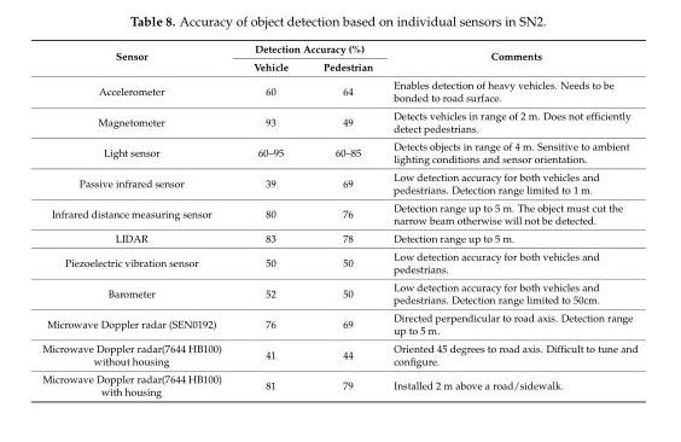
<table><thead><tr><td rowspan="2">Sensor</td><td colspan="2">Detection Accuracy (%)</td><td rowspan="2">Comments</td></tr><tr><td>Vehicle</td><td>Pedestrian</td></tr></thead><tbody><tr><td>Accelerometer</td><td>60</td><td>64</td><td>Enables detection of heavy vehicles. Needs to be bonded to road surface.</td></tr><tr><td>Magnetometer</td><td>93</td><td>49</td><td>Detects vehicles in range of 2 m. Does not efficiently detect pedestrians.</td></tr><tr><td>Light sensor</td><td>60–95</td><td>60–85</td><td>Detects objects in range of 4 m. Sensitive to ambient lighting conditions and sensor orientation.</td></tr><tr><td>Passive infrared sensor</td><td>39</td><td>69</td><td>Low detection accuracy for both vehicles and pedestrians. Detection range limited to 1 m.</td></tr><tr><td>Infrared distance measuring sensor</td><td>80</td><td>76</td><td>Detection range up to 5 m. The object must cut the narrow beam otherwise will not be detected.</td></tr><tr><td>LIDAR</td><td>83</td><td>78</td><td>Detection range up to 5 m.</td></tr><tr><td>Piezoelectric vibration sensor</td><td>50</td><td>50</td><td>Low detection accuracy for both vehicles and pedestrians.</td></tr><tr><td>Barometer</td><td>52</td><td>50</td><td>Low detection accuracy for both vehicles and pedestrians. Detection range limited to 50cm.</td></tr><tr><td>Microwave Doppler radar (SEN0192)</td><td>76</td><td>69</td><td>Directed perpendicular to road axis. Detection range up to 5 m.</td></tr><tr><td>Microwave Doppler radar(7644 HB100) without housing</td><td>41</td><td>44</td><td>Oriented 45 degrees to road axis. Difficult to tune and configure.</td></tr><tr><td>Microwave Doppler radar(7644 HB100) with housing</td><td>81</td><td>79</td><td>Installed 2 m above a road/sidewalk.</td></tr></tbody></table>